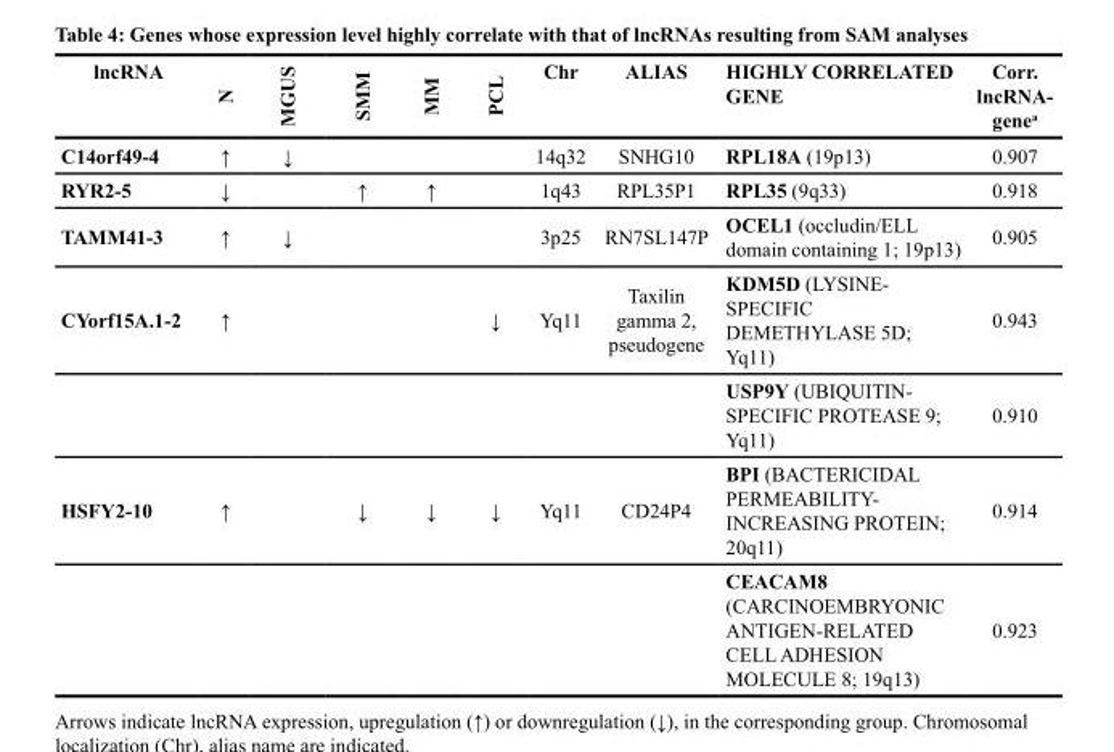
<table><thead><tr><td>lncRNA</td><td>N</td><td>MGUS</td><td>SMM</td><td>MM</td><td>PCL</td><td>Chr</td><td>ALIAS</td><td>HIGHLY CORRELATED GENE</td><td>Corr. lncRNA- gene<sup>a</sup></td></tr></thead><tbody><tr><td>C14orf49-4</td><td>↑</td><td>↓</td><td></td><td></td><td></td><td>14q32</td><td>SNHG10</td><td>RPL18A (19p13)</td><td>0.907</td></tr><tr><td>RYR2-5</td><td>↓</td><td></td><td>↑</td><td>↑</td><td></td><td>1q43</td><td>RPL35P1</td><td>RPL35 (9q33)</td><td>0.918</td></tr><tr><td>TAMM41-3</td><td>↑</td><td>↓</td><td></td><td></td><td></td><td>3p25</td><td>RN7SL147P</td><td>OCEL1 (occludin/ELL domain containing 1; 19p13)</td><td>0.905</td></tr><tr><td rowspan="2">CYorf15A.1-2</td><td>↑</td><td></td><td></td><td></td><td>↓</td><td>Yq11</td><td>Taxilin gamma 2, pseudogene</td><td>KDM5D (LYSINE- SPECIFIC DEMETHYLASE 5D; Yq11)</td><td>0.943</td></tr><tr><td></td><td></td><td></td><td></td><td></td><td></td><td></td><td>USP9Y (UBIQUITIN- SPECIFIC PROTEASE 9; Yq11)</td><td>0.910</td></tr><tr><td rowspan="2">HSFY2-10</td><td>↑</td><td></td><td>↓</td><td>↓</td><td>↓</td><td>Yq11</td><td>CD24P4</td><td>BPI (BACTERICIDAL PERMEABILITY- INCREASING PROTEIN; 20q11)</td><td>0.914</td></tr><tr><td></td><td></td><td></td><td></td><td></td><td></td><td></td><td>CEACAM8 (CARCINOEMBRYONIC ANTIGEN-RELATED CELL ADHESION MOLECULE 8; 19q13)</td><td>0.923</td></tr></tbody></table>